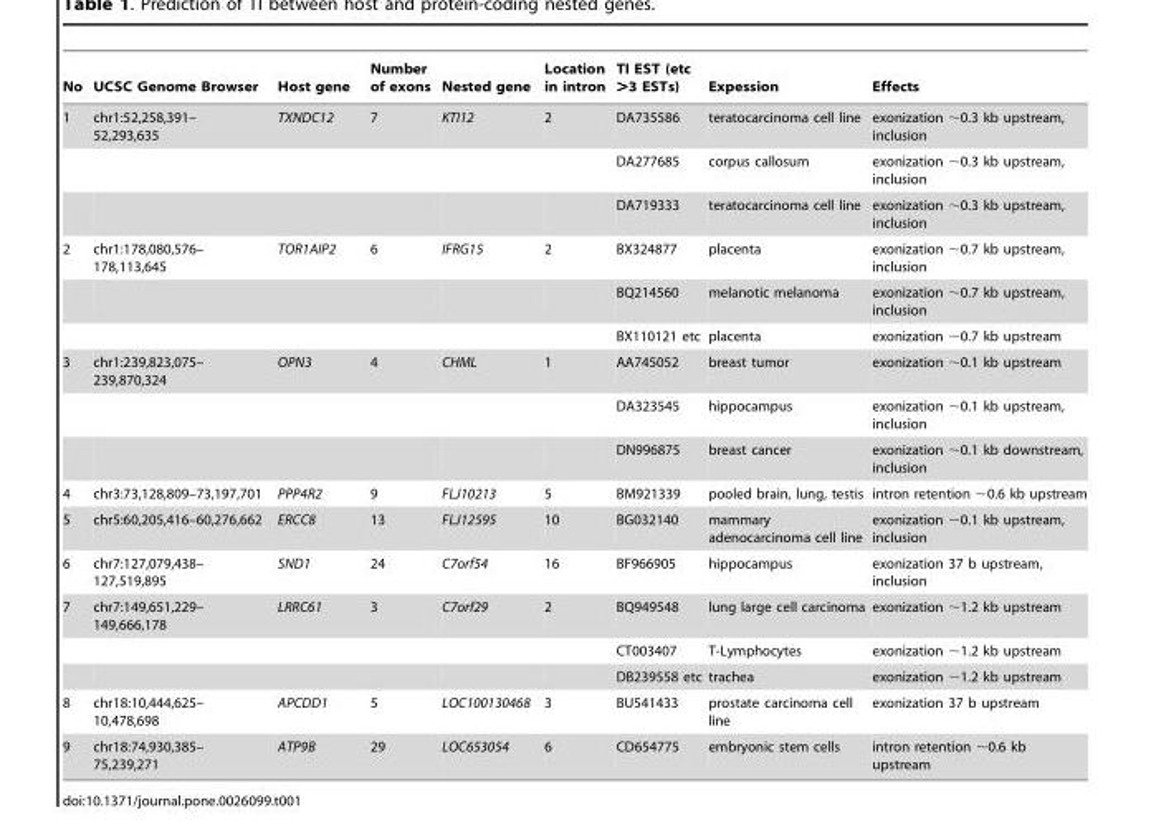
<table><thead><tr><td>No</td><td>UCSC Genome Browser</td><td>Host gene</td><td>Number of exons</td><td>Nested gene</td><td>Location in intron</td><td>TI EST (etc &gt;3 ESTs)</td><td>Expession</td><td>Effects</td></tr></thead><tbody><tr><td rowspan="3">1</td><td>chr1:52,258,391– 52,293,635</td><td>TXNDC12</td><td>7</td><td>KTI12</td><td>2</td><td>DA735586</td><td>teratocarcinoma cell line</td><td>exonization ∼0.3 kb upstream, inclusion</td></tr><tr><td></td><td></td><td></td><td></td><td></td><td>DA277685</td><td>corpus callosum</td><td>exonization ∼0.3 kb upstream, inclusion</td></tr><tr><td></td><td></td><td></td><td></td><td></td><td>DA719333</td><td>teratocarcinoma cell line</td><td>exonization ∼0.3 kb upstream, inclusion</td></tr><tr><td rowspan="3">2</td><td>chr1:178,080,576– 178,113,645</td><td>TOR1AIP2</td><td>6</td><td>IFRG15</td><td>2</td><td>BX324877</td><td>placenta</td><td>exonization ∼0.7 kb upstream, inclusion</td></tr><tr><td></td><td></td><td></td><td></td><td></td><td>BQ214560</td><td>melanotic melanoma</td><td>exonization ∼0.7 kb upstream, inclusion</td></tr><tr><td></td><td></td><td></td><td></td><td></td><td>BX110121 etc</td><td>placenta</td><td>exonization ∼0.7 kb upstream</td></tr><tr><td rowspan="3">3</td><td>chr1:239,823,075– 239,870,324</td><td>OPN3</td><td>4</td><td>CHML</td><td>1</td><td>AA745052</td><td>breast tumor</td><td>exonization ∼0.1 kb upstream</td></tr><tr><td></td><td></td><td></td><td></td><td></td><td>DA323545</td><td>hippocampus</td><td>exonization ∼0.1 kb upstream, inclusion</td></tr><tr><td></td><td></td><td></td><td></td><td></td><td>DN996875</td><td>breast cancer</td><td>exonization ∼0.1 kb downstream, inclusion</td></tr><tr><td>4</td><td>chr3:73,128,809–73,197,701</td><td>PPP4R2</td><td>9</td><td>FLJ10213</td><td>5</td><td>BM921339</td><td>pooled brain, lung, testis</td><td>intron retention ∼0.6 kb upstream</td></tr><tr><td>5</td><td>chr5:60,205,416–60,276,662</td><td>ERCC8</td><td>13</td><td>FLJ12595</td><td>10</td><td>BG032140</td><td>mammary adenocarcinoma cell line</td><td>exonization ∼0.1 kb upstream, inclusion</td></tr><tr><td>6</td><td>chr7:127,079,438– 127,519,895</td><td>SND1</td><td>24</td><td>C7orf54</td><td>16</td><td>BF966905</td><td>hippocampus</td><td>exonization 37 b upstream, inclusion</td></tr><tr><td rowspan="3">7</td><td>chr7:149,651,229– 149,666,178</td><td>LRRC61</td><td>3</td><td>C7orf29</td><td>2</td><td>BQ949548</td><td>lung large cell carcinoma</td><td>exonization ∼1.2 kb upstream</td></tr><tr><td></td><td></td><td></td><td></td><td></td><td>CT003407</td><td>T-Lymphocytes</td><td>exonization ∼1.2 kb upstream</td></tr><tr><td></td><td></td><td></td><td></td><td></td><td>DB239558 etc</td><td>trachea</td><td>exonization ∼1.2 kb upstream</td></tr><tr><td>8</td><td>chr18:10,444,625– 10,478,698</td><td>APCDD1</td><td>5</td><td>LOC100130468</td><td>3</td><td>BU541433</td><td>prostate carcinoma cell line</td><td>exonization 37 b upstream</td></tr><tr><td>9</td><td>chr18:74,930,385– 75,239,271</td><td>ATP9B</td><td>29</td><td>LOC653054</td><td>6</td><td>CD654775</td><td>embryonic stem cells</td><td>intron retention ∼0.6 kb upstream</td></tr></tbody></table>